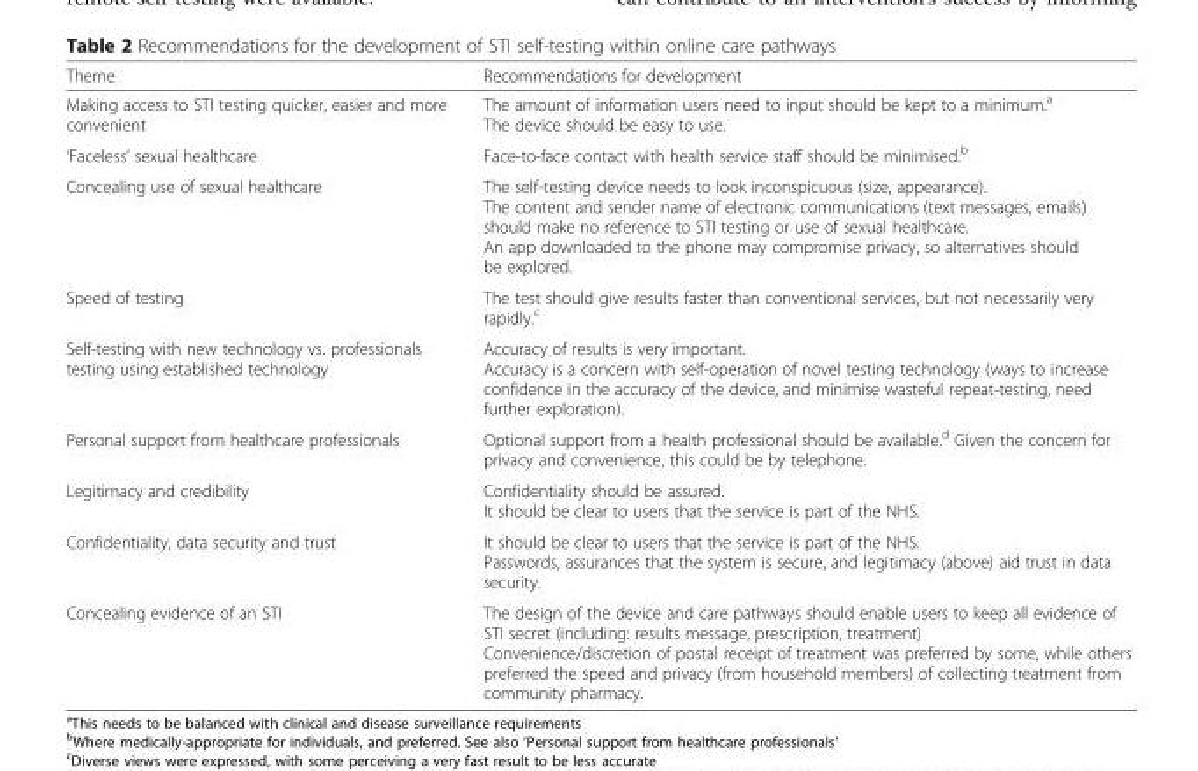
<table><thead><tr><td>Theme</td><td>Recommendations for development</td></tr></thead><tbody><tr><td>Making access to STI testing quicker, easier and more convenient</td><td>The amount of information users need to input should be kept to a minimum.<sup>a</sup> The device should be easy to use.</td></tr><tr><td>‘Faceless’ sexual healthcare</td><td>Face-to-face contact with health service staff should be minimised.<sup>b</sup></td></tr><tr><td>Concealing use of sexual healthcare</td><td>The self-testing device needs to look inconspicuous (size, appearance). The content and sender name of electronic communications (text messages, emails) should make no reference to STI testing or use of sexual healthcare. An app downloaded to the phone may compromise privacy, so alternatives should be explored.</td></tr><tr><td>Speed of testing</td><td>The test should give results faster than conventional services, but not necessarily very rapidly.<sup>c</sup></td></tr><tr><td>Self-testing with new technology vs. professionals testing using established technology</td><td>Accuracy of results is very important. Accuracy is a concern with self-operation of novel testing technology (ways to increase confidence in the accuracy of the device, and minimise wasteful repeat-testing, need further exploration).</td></tr><tr><td>Personal support from healthcare professionals</td><td>Optional support from a health professional should be available.<sup>d</sup> Given the concern for privacy and convenience, this could be by telephone.</td></tr><tr><td>Legitimacy and credibility</td><td>Confidentiality should be assured. It should be clear to users that the service is part of the NHS.</td></tr><tr><td>Confidentiality, data security and trust</td><td>It should be clear to users that the service is part of the NHS. Passwords, assurances that the system is secure, and legitimacy (above) aid trust in data security.</td></tr><tr><td>Concealing evidence of an STI</td><td>The design of the device and care pathways should enable users to keep all evidence of STI secret (including: results message, prescription, treatment) Convenience/discretion of postal receipt of treatment was preferred by some, while others preferred the speed and privacy (from household members) of collecting treatment from community pharmacy.</td></tr></tbody></table>